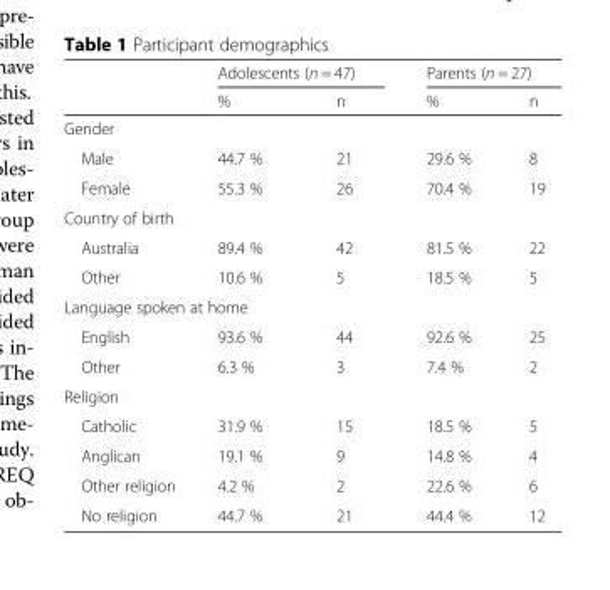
<table><thead><tr><td rowspan="2"></td><td colspan="2">Adolescents (n = 47)</td><td colspan="2">Parents (n = 27)</td></tr><tr><td>%</td><td>n</td><td>%</td><td>n</td></tr></thead><tbody><tr><td colspan="5">Gender</td></tr><tr><td>Male</td><td>44.7 %</td><td>21</td><td>29.6 %</td><td>8</td></tr><tr><td>Female</td><td>55.3 %</td><td>26</td><td>70.4 %</td><td>19</td></tr><tr><td colspan="5">Country of birth</td></tr><tr><td>Australia</td><td>89.4 %</td><td>42</td><td>81.5 %</td><td>22</td></tr><tr><td>Other</td><td>10.6 %</td><td>5</td><td>18.5 %</td><td>5</td></tr><tr><td colspan="5">Language spoken at home</td></tr><tr><td>English</td><td>93.6 %</td><td>44</td><td>92.6 %</td><td>25</td></tr><tr><td>Other</td><td>6.3 %</td><td>3</td><td>7.4 %</td><td>2</td></tr><tr><td colspan="5">Religion</td></tr><tr><td>Catholic</td><td>31.9 %</td><td>15</td><td>18.5 %</td><td>5</td></tr><tr><td>Anglican</td><td>19.1 %</td><td>9</td><td>14.8 %</td><td>4</td></tr><tr><td>Other religion</td><td>4.2 %</td><td>2</td><td>22.6 %</td><td>6</td></tr><tr><td>No religion</td><td>44.7 %</td><td>21</td><td>44.4 %</td><td>12</td></tr></tbody></table>